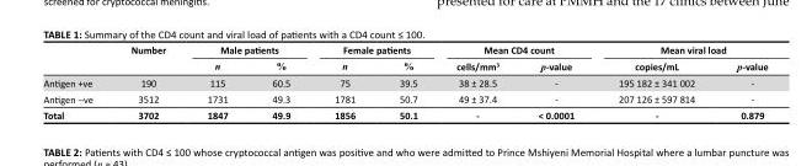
<table><thead><tr><td rowspan="2"></td><td rowspan="2">Number</td><td colspan="2">Male patients</td><td colspan="2">Female patients</td><td colspan="2">Mean CD4 count</td><td colspan="2">Mean viral load</td></tr><tr><td>n</td><td>%</td><td>n</td><td>%</td><td>cells/mm<sup>3</sup></td><td>p-value</td><td>copies/mL</td><td>p-value</td></tr></thead><tbody><tr><td>Antigen +ve</td><td>190</td><td>115</td><td>60.5</td><td>75</td><td>39.5</td><td>38 ± 28.5</td><td>-</td><td>195 182 ± 341 002</td><td>-</td></tr><tr><td>Antigen -ve</td><td>3512</td><td>1731</td><td>49.3</td><td>1781</td><td>50.7</td><td>49 ± 37.4</td><td>-</td><td>207 126 ± 597 814</td><td>-</td></tr><tr><td>Total</td><td>3702</td><td>1847</td><td>49.9</td><td>1856</td><td>50.1</td><td>-</td><td>&lt; 0.0001</td><td>-</td><td>0.879</td></tr></tbody></table>